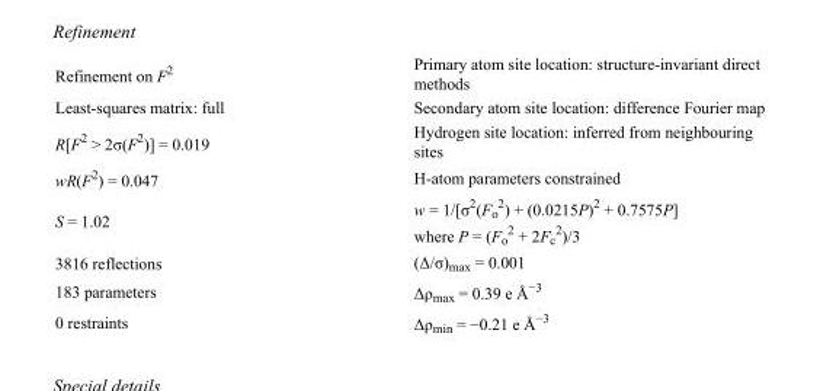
<table><tbody><tr><td>Refinement on F<sup>2</sup></td><td>Primary atom site location: structure-invariant direct methods</td></tr><tr><td>Least-squares matrix: full</td><td>Secondary atom site location: difference Fourier map</td></tr><tr><td>R[F<sup>2</sup> &gt; 2σ(F<sup>2</sup>)] = 0.019</td><td>Hydrogen site location: inferred from neighbouring sites</td></tr><tr><td>wR(F<sup>2</sup>) = 0.047</td><td>H-atom parameters constrained</td></tr><tr><td>S = 1.02</td><td>w = 1/[σ<sup>2</sup>(F<sub>o</sub> <sup>2</sup>) + (0.0215P)<sup>2</sup> + 0.7575P] where P = (F<sub>o</sub> <sup>2</sup> + 2F<sub>c</sub> <sup>2</sup>)/3</td></tr><tr><td>3816 reflections</td><td>(Δ/σ)<sub>max</sub> = 0.001</td></tr><tr><td>183 parameters</td><td>Δρ<sub>max</sub> = 0.39 e Å<sup>−3</sup></td></tr><tr><td>0 restraints</td><td>Δρ<sub>min</sub> = −0.21 e Å<sup>−3</sup></td></tr></tbody></table>